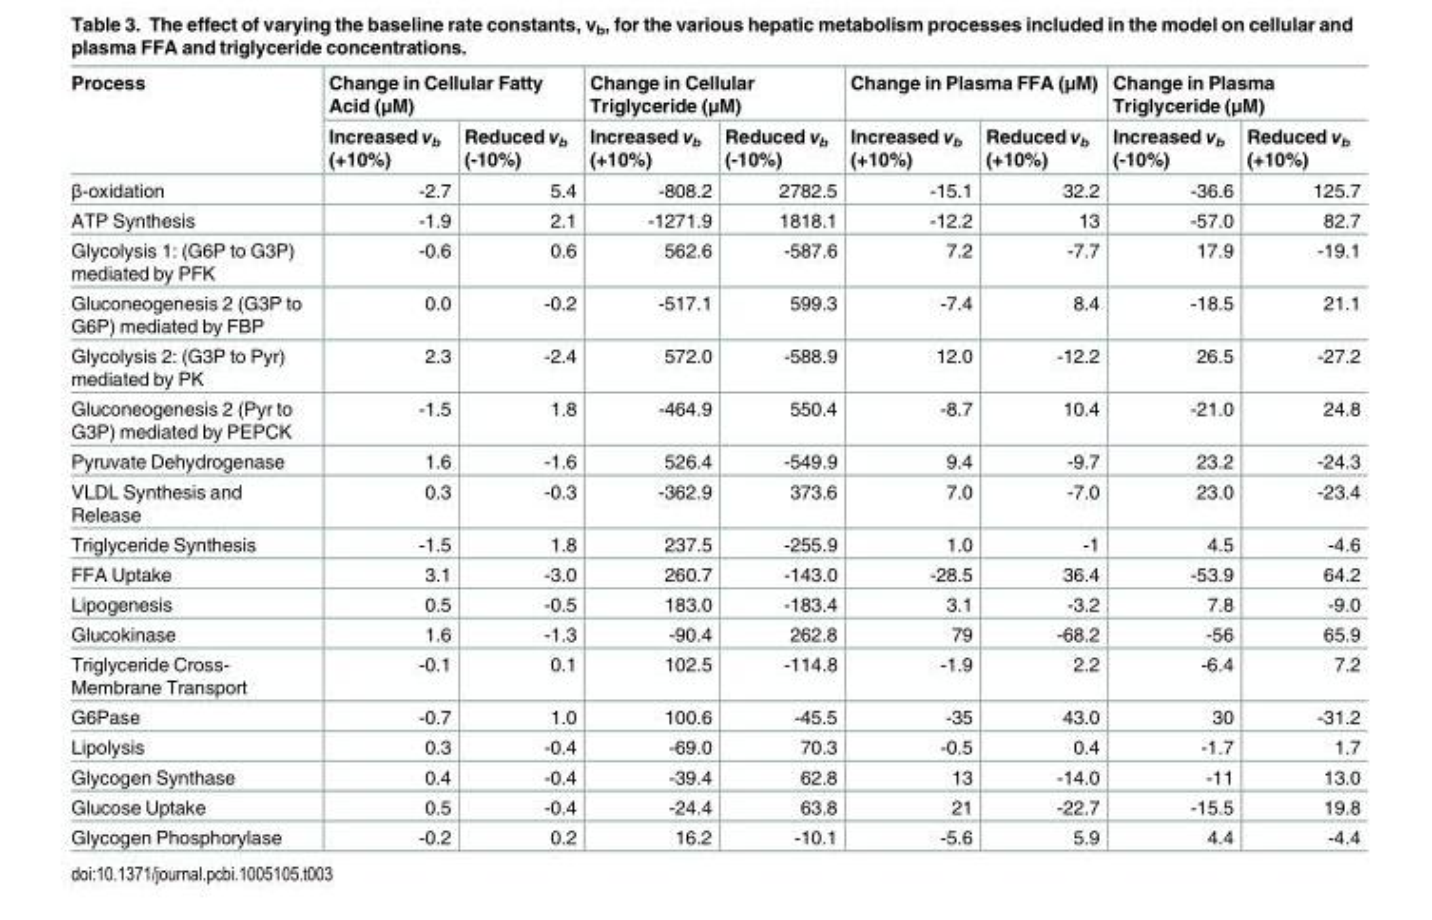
<table><thead><tr><td rowspan="2">Process</td><td colspan="2">Change in Cellular Fatty Acid (μM)</td><td colspan="2">Change in Cellular Triglyceride (μM)</td><td colspan="2">Change in Plasma FFA (μM)</td><td colspan="2">Change in Plasma Triglyceride (μM)</td></tr><tr><td>Increased v<sub>b</sub> (+10%)</td><td>Reduced v<sub>b</sub> (-10%)</td><td>Increased v<sub>b</sub> (+10%)</td><td>Reduced v<sub>b</sub> (-10%)</td><td>Increased v<sub>b</sub> (+10%)</td><td>Reduced v<sub>b</sub> (+10%)</td><td>Increased v<sub>b</sub> (-10%)</td><td>Reduced v<sub>b</sub> (+10%)</td></tr></thead><tbody><tr><td>β-oxidation</td><td>-2.7</td><td>5.4</td><td>-808.2</td><td>2782.5</td><td>-15.1</td><td>32.2</td><td>-36.6</td><td>125.7</td></tr><tr><td>ATP Synthesis</td><td>-1.9</td><td>2.1</td><td>-1271.9</td><td>1818.1</td><td>-12.2</td><td>13</td><td>-57.0</td><td>82.7</td></tr><tr><td>Glycolysis 1: (G6P to G3P) mediated by PFK</td><td>-0.6</td><td>0.6</td><td>562.6</td><td>-587.6</td><td>7.2</td><td>-7.7</td><td>17.9</td><td>-19.1</td></tr><tr><td>Gluconeogenesis 2 (G3P to G6P) mediated by FBP</td><td>0.0</td><td>-0.2</td><td>-517.1</td><td>599.3</td><td>-7.4</td><td>8.4</td><td>-18.5</td><td>21.1</td></tr><tr><td>Glycolysis 2: (G3P to Pyr) mediated by PK</td><td>2.3</td><td>-2.4</td><td>572.0</td><td>-588.9</td><td>12.0</td><td>-12.2</td><td>26.5</td><td>-27.2</td></tr><tr><td>Gluconeogenesis 2 (Pyr to G3P) mediated by PEPCK</td><td>-1.5</td><td>1.8</td><td>-464.9</td><td>550.4</td><td>-8.7</td><td>10.4</td><td>-21.0</td><td>24.8</td></tr><tr><td>Pyruvate Dehydrogenase</td><td>1.6</td><td>-1.6</td><td>526.4</td><td>-549.9</td><td>9.4</td><td>-9.7</td><td>23.2</td><td>-24.3</td></tr><tr><td>VLDL Synthesis and Release</td><td>0.3</td><td>-0.3</td><td>-362.9</td><td>373.6</td><td>7.0</td><td>-7.0</td><td>23.0</td><td>-23.4</td></tr><tr><td>Triglyceride Synthesis</td><td>-1.5</td><td>1.8</td><td>237.5</td><td>-255.9</td><td>1.0</td><td>-1</td><td>4.5</td><td>-4.6</td></tr><tr><td>FFA Uptake</td><td>3.1</td><td>-3.0</td><td>260.7</td><td>-143.0</td><td>-28.5</td><td>36.4</td><td>-53.9</td><td>64.2</td></tr><tr><td>Lipogenesis</td><td>0.5</td><td>-0.5</td><td>183.0</td><td>-183.4</td><td>3.1</td><td>-3.2</td><td>7.8</td><td>-9.0</td></tr><tr><td>Glucokinase</td><td>1.6</td><td>-1.3</td><td>-90.4</td><td>262.8</td><td>79</td><td>-68.2</td><td>-56</td><td>65.9</td></tr><tr><td>Triglyceride Cross- Membrane Transport</td><td>-0.1</td><td>0.1</td><td>102.5</td><td>-114.8</td><td>-1.9</td><td>2.2</td><td>-6.4</td><td>7.2</td></tr><tr><td>G6Pase</td><td>-0.7</td><td>1.0</td><td>100.6</td><td>-45.5</td><td>-35</td><td>43.0</td><td>30</td><td>-31.2</td></tr><tr><td>Lipolysis</td><td>0.3</td><td>-0.4</td><td>-69.0</td><td>70.3</td><td>-0.5</td><td>0.4</td><td>-1.7</td><td>1.7</td></tr><tr><td>Glycogen Synthase</td><td>0.4</td><td>-0.4</td><td>-39.4</td><td>62.8</td><td>13</td><td>-14.0</td><td>-11</td><td>13.0</td></tr><tr><td>Glucose Uptake</td><td>0.5</td><td>-0.4</td><td>-24.4</td><td>63.8</td><td>21</td><td>-22.7</td><td>-15.5</td><td>19.8</td></tr><tr><td>Glycogen Phosphorylase</td><td>-0.2</td><td>0.2</td><td>16.2</td><td>-10.1</td><td>-5.6</td><td>5.9</td><td>4.4</td><td>-4.4</td></tr></tbody></table>